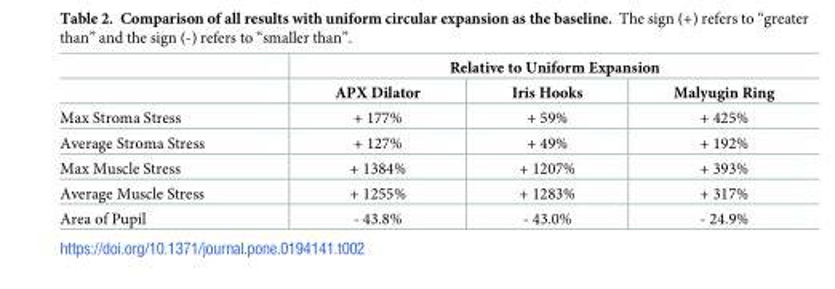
<table><thead><tr><td rowspan="2"></td><td colspan="3">Relative to Uniform Expansion</td></tr><tr><td>APX Dilator</td><td>Iris Hooks</td><td>Malyugin Ring</td></tr></thead><tbody><tr><td>Max Stroma Stress</td><td>+ 177%</td><td>+ 59%</td><td>+ 425%</td></tr><tr><td>Average Stroma Stress</td><td>+ 127%</td><td>+ 49%</td><td>+ 192%</td></tr><tr><td>Max Muscle Stress</td><td>+ 1384%</td><td>+ 1207%</td><td>+ 393%</td></tr><tr><td>Average Muscle Stress</td><td>+ 1255%</td><td>+ 1283%</td><td>+ 317%</td></tr><tr><td>Area of Pupil</td><td>- 43.8%</td><td>- 43.0%</td><td>- 24.9%</td></tr></tbody></table>